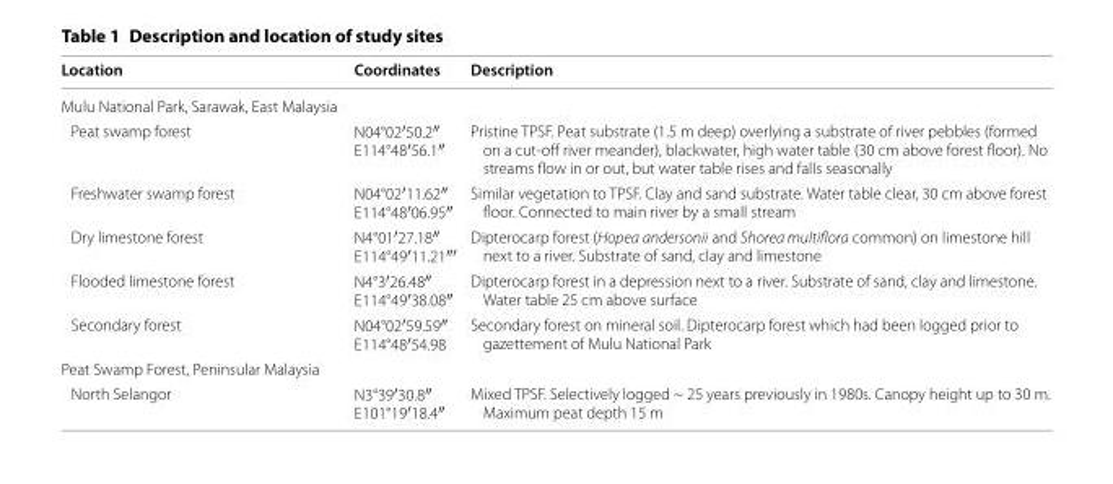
<table><thead><tr><td>Location</td><td>Coordinates</td><td>Description</td></tr></thead><tbody><tr><td colspan="3">Mulu National Park, Sarawak, East Malaysia</td></tr><tr><td>Peat swamp forest</td><td>N04°02′50.2″ E114°48′56.1″</td><td>Pristine TPSF. Peat substrate (1.5 m deep) overlying a substrate of river pebbles (formed on a cut-off river meander), blackwater, high water table (30 cm above forest floor). No streams flow in or out, but water table rises and falls seasonally</td></tr><tr><td>Freshwater swamp forest</td><td>N04°02′11.62″ E114°48′06.95″</td><td>Similar vegetation to TPSF. Clay and sand substrate. Water table clear, 30 cm above forest floor. Connected to main river by a small stream</td></tr><tr><td>Dry limestone forest</td><td>N4°01′27.18″ E114°49′11.21″′</td><td>Dipterocarp forest (Hopea andersonii and Shorea multiflora common) on limestone hill next to a river. Substrate of sand, clay and limestone</td></tr><tr><td>Flooded limestone forest</td><td>N4°3′26.48″ E114°49′38.08″</td><td>Dipterocarp forest in a depression next to a river. Substrate of sand, clay and limestone. Water table 25 cm above surface</td></tr><tr><td>Secondary forest</td><td>N04°02′59.59″ E114°48′54.98</td><td>Secondary forest on mineral soil. Dipterocarp forest which had been logged prior to gazettement of Mulu National Park</td></tr><tr><td colspan="3">Peat Swamp Forest, Peninsular Malaysia</td></tr><tr><td>North Selangor</td><td>N3°39′30.8″ E101°19′18.4″</td><td>Mixed TPSF. Selectively logged ~ 25 years previously in 1980s. Canopy height up to 30 m. Maximum peat depth 15 m</td></tr></tbody></table>